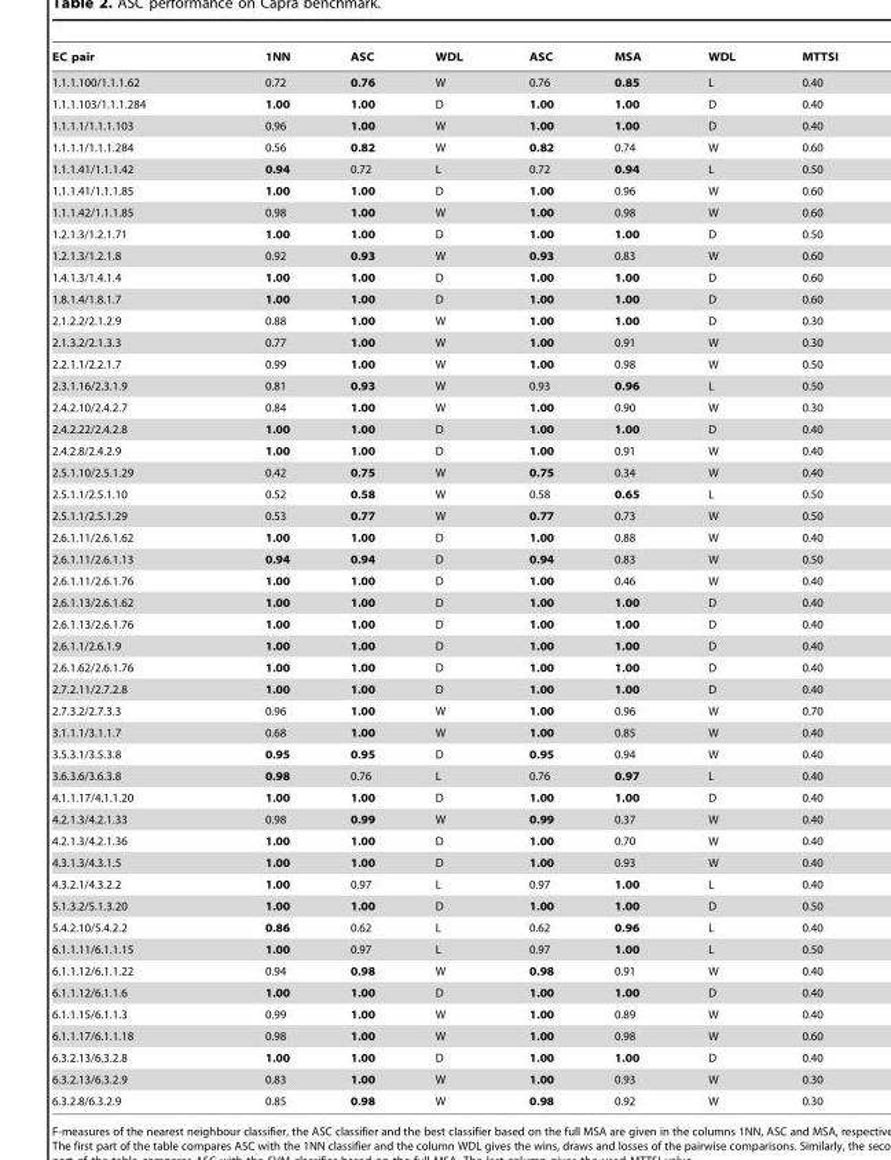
<table><thead><tr><td>EC pair</td><td>1NN</td><td>ASC</td><td>WDL</td><td>ASC</td><td>MSA</td><td>WDL</td><td>MTTSI</td></tr></thead><tbody><tr><td>1.1.1.100/1.1.1.62</td><td>0.72</td><td>0.76</td><td>W</td><td>0.76</td><td>0.85</td><td>L</td><td>0.40</td></tr><tr><td>1.1.1.103/1.1.1.284</td><td>1.00</td><td>1.00</td><td>D</td><td>1.00</td><td>1.00</td><td>D</td><td>0.40</td></tr><tr><td>1.1.1.1/1.1.1.103</td><td>0.96</td><td>1.00</td><td>W</td><td>1.00</td><td>1.00</td><td>D</td><td>0.40</td></tr><tr><td>1.1.1.1/1.1.1.284</td><td>0.56</td><td>0.82</td><td>W</td><td>0.82</td><td>0.74</td><td>W</td><td>0.60</td></tr><tr><td>1.1.1.41/1.1.1.42</td><td>0.94</td><td>0.72</td><td>L</td><td>0.72</td><td>0.94</td><td>L</td><td>0.50</td></tr><tr><td>1.1.1.41/1.1.1.85</td><td>1.00</td><td>1.00</td><td>D</td><td>1.00</td><td>0.96</td><td>W</td><td>0.60</td></tr><tr><td>1.1.1.42/1.1.1.85</td><td>0.98</td><td>1.00</td><td>W</td><td>1.00</td><td>0.98</td><td>W</td><td>0.60</td></tr><tr><td>1.2.1.3/1.2.1.71</td><td>1.00</td><td>1.00</td><td>D</td><td>1.00</td><td>1.00</td><td>D</td><td>0.50</td></tr><tr><td>1.2.1.3/1.2.1.8</td><td>0.92</td><td>0.93</td><td>W</td><td>0.93</td><td>0.83</td><td>W</td><td>0.60</td></tr><tr><td>1.4.1.3/1.4.1.4</td><td>1.00</td><td>1.00</td><td>D</td><td>1.00</td><td>1.00</td><td>D</td><td>0.60</td></tr><tr><td>1.8.1.4/1.8.1.7</td><td>1.00</td><td>1.00</td><td>D</td><td>1.00</td><td>1.00</td><td>D</td><td>0.60</td></tr><tr><td>2.1.2.2/2.1.2.9</td><td>0.88</td><td>1.00</td><td>W</td><td>1.00</td><td>1.00</td><td>D</td><td>0.30</td></tr><tr><td>2.1.3.2/2.1.3.3</td><td>0.77</td><td>1.00</td><td>W</td><td>1.00</td><td>0.91</td><td>W</td><td>0.30</td></tr><tr><td>2.2.1.1/2.2.1.7</td><td>0.99</td><td>1.00</td><td>W</td><td>1.00</td><td>0.98</td><td>W</td><td>0.50</td></tr><tr><td>2.3.1.16/2.3.1.9</td><td>0.81</td><td>0.93</td><td>W</td><td>0.93</td><td>0.96</td><td>L</td><td>0.50</td></tr><tr><td>2.4.2.10/2.4.2.7</td><td>0.84</td><td>1.00</td><td>W</td><td>1.00</td><td>0.90</td><td>W</td><td>0.30</td></tr><tr><td>2.4.2.22/2.4.2.8</td><td>1.00</td><td>1.00</td><td>D</td><td>1.00</td><td>1.00</td><td>D</td><td>0.40</td></tr><tr><td>2.4.2.8/2.4.2.9</td><td>1.00</td><td>1.00</td><td>D</td><td>1.00</td><td>0.91</td><td>W</td><td>0.40</td></tr><tr><td>2.5.1.10/2.5.1.29</td><td>0.42</td><td>0.75</td><td>W</td><td>0.75</td><td>0.34</td><td>W</td><td>0.40</td></tr><tr><td>2.5.1.1/2.5.1.10</td><td>0.52</td><td>0.58</td><td>W</td><td>0.58</td><td>0.65</td><td>L</td><td>0.50</td></tr><tr><td>2.5.1.1/2.5.1.29</td><td>0.53</td><td>0.77</td><td>W</td><td>0.77</td><td>0.73</td><td>W</td><td>0.50</td></tr><tr><td>2.6.1.11/2.6.1.62</td><td>1.00</td><td>1.00</td><td>D</td><td>1.00</td><td>0.88</td><td>W</td><td>0.40</td></tr><tr><td>2.6.1.11/2.6.1.13</td><td>0.94</td><td>0.94</td><td>D</td><td>0.94</td><td>0.83</td><td>W</td><td>0.50</td></tr><tr><td>2.6.1.11/2.6.1.76</td><td>1.00</td><td>1.00</td><td>D</td><td>1.00</td><td>0.46</td><td>W</td><td>0.40</td></tr><tr><td>2.6.1.13/2.6.1.62</td><td>1.00</td><td>1.00</td><td>D</td><td>1.00</td><td>1.00</td><td>D</td><td>0.40</td></tr><tr><td>2.6.1.13/2.6.1.76</td><td>1.00</td><td>1.00</td><td>D</td><td>1.00</td><td>1.00</td><td>D</td><td>0.40</td></tr><tr><td>2.6.1.1/2.6.1.9</td><td>1.00</td><td>1.00</td><td>D</td><td>1.00</td><td>1.00</td><td>D</td><td>0.40</td></tr><tr><td>2.6.1.62/2.6.1.76</td><td>1.00</td><td>1.00</td><td>D</td><td>1.00</td><td>1.00</td><td>D</td><td>0.40</td></tr><tr><td>2.7.2.11/2.7.2.8</td><td>1.00</td><td>1.00</td><td>D</td><td>1.00</td><td>1.00</td><td>D</td><td>0.40</td></tr><tr><td>2.7.3.2/2.7.3.3</td><td>0.96</td><td>1.00</td><td>W</td><td>1.00</td><td>0.96</td><td>W</td><td>0.70</td></tr><tr><td>3.1.1.1/3.1.1.7</td><td>0.68</td><td>1.00</td><td>W</td><td>1.00</td><td>0.85</td><td>W</td><td>0.40</td></tr><tr><td>3.5.3.1/3.5.3.8</td><td>0.95</td><td>0.95</td><td>D</td><td>0.95</td><td>0.94</td><td>W</td><td>0.40</td></tr><tr><td>3.6.3.6/3.6.3.8</td><td>0.98</td><td>0.76</td><td>L</td><td>0.76</td><td>0.97</td><td>L</td><td>0.40</td></tr><tr><td>4.1.1.17/4.1.1.20</td><td>1.00</td><td>1.00</td><td>D</td><td>1.00</td><td>1.00</td><td>D</td><td>0.40</td></tr><tr><td>4.2.1.3/4.2.1.33</td><td>0.98</td><td>0.99</td><td>W</td><td>0.99</td><td>0.37</td><td>W</td><td>0.40</td></tr><tr><td>4.2.1.3/4.2.1.36</td><td>1.00</td><td>1.00</td><td>D</td><td>1.00</td><td>0.70</td><td>W</td><td>0.40</td></tr><tr><td>4.3.1.3/4.3.1.5</td><td>1.00</td><td>1.00</td><td>D</td><td>1.00</td><td>0.93</td><td>W</td><td>0.40</td></tr><tr><td>4.3.2.1/4.3.2.2</td><td>1.00</td><td>0.97</td><td>L</td><td>0.97</td><td>1.00</td><td>L</td><td>0.40</td></tr><tr><td>5.1.3.2/5.1.3.20</td><td>1.00</td><td>1.00</td><td>D</td><td>1.00</td><td>1.00</td><td>D</td><td>0.50</td></tr><tr><td>5.4.2.10/5.4.2.2</td><td>0.86</td><td>0.62</td><td>L</td><td>0.62</td><td>0.96</td><td>L</td><td>0.40</td></tr><tr><td>6.1.1.11/6.1.1.15</td><td>1.00</td><td>0.97</td><td>L</td><td>0.97</td><td>1.00</td><td>L</td><td>0.50</td></tr><tr><td>6.1.1.12/6.1.1.22</td><td>0.94</td><td>0.98</td><td>W</td><td>0.98</td><td>0.91</td><td>W</td><td>0.40</td></tr><tr><td>6.1.1.12/6.1.1.6</td><td>1.00</td><td>1.00</td><td>D</td><td>1.00</td><td>1.00</td><td>D</td><td>0.40</td></tr><tr><td>6.1.1.15/6.1.1.3</td><td>0.99</td><td>1.00</td><td>W</td><td>1.00</td><td>0.89</td><td>W</td><td>0.40</td></tr><tr><td>6.1.1.17/6.1.1.18</td><td>0.98</td><td>1.00</td><td>W</td><td>1.00</td><td>0.98</td><td>W</td><td>0.60</td></tr><tr><td>6.3.2.13/6.3.2.8</td><td>1.00</td><td>1.00</td><td>D</td><td>1.00</td><td>1.00</td><td>D</td><td>0.40</td></tr><tr><td>6.3.2.13/6.3.2.9</td><td>0.83</td><td>1.00</td><td>W</td><td>1.00</td><td>0.93</td><td>W</td><td>0.30</td></tr><tr><td>6.3.2.8/6.3.2.9</td><td>0.85</td><td>0.98</td><td>W</td><td>0.98</td><td>0.92</td><td>W</td><td>0.30</td></tr></tbody></table>